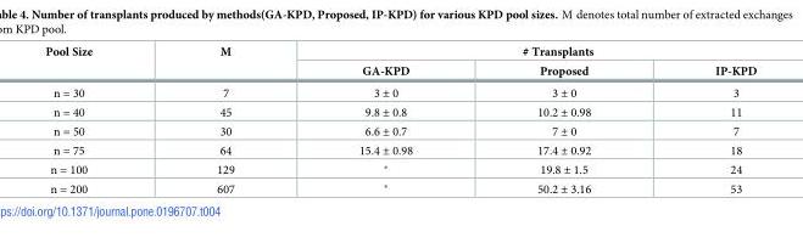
<table><thead><tr><td rowspan="2">Pool Size</td><td rowspan="2">M</td><td colspan="3"># Transplants</td></tr><tr><td>GA-KPD</td><td>Proposed</td><td>IP-KPD</td></tr></thead><tbody><tr><td>n = 30</td><td>7</td><td>3 ± 0</td><td>3 ± 0</td><td>3</td></tr><tr><td>n = 40</td><td>45</td><td>9.8 ± 0.8</td><td>10.2 ± 0.98</td><td>11</td></tr><tr><td>n = 50</td><td>30</td><td>6.6 ± 0.7</td><td>7 ± 0</td><td>7</td></tr><tr><td>n = 75</td><td>64</td><td>15.4 ± 0.98</td><td>17.4 ± 0.92</td><td>18</td></tr><tr><td>n = 100</td><td>129</td><td>*</td><td>19.8 ± 1.5</td><td>24</td></tr><tr><td>n = 200</td><td>607</td><td>*</td><td>50.2 ± 3.16</td><td>53</td></tr></tbody></table>